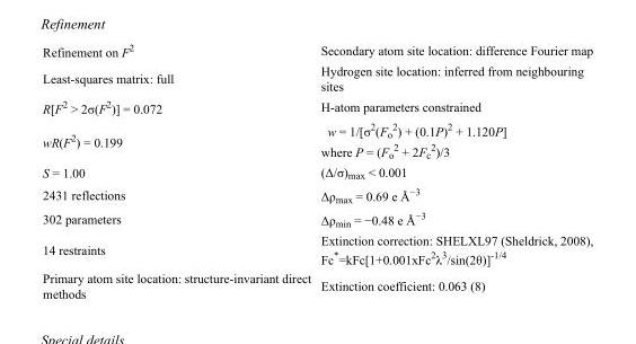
<table><tbody><tr><td>Refinement on F<sup>2</sup></td><td>Secondary atom site location: difference Fourier map</td></tr><tr><td>Least-squares matrix: full</td><td>Hydrogen site location: inferred from neighbouring sites</td></tr><tr><td>R[F<sup>2</sup> &gt; 2σ(F<sup>2</sup>)] = 0.072</td><td>H-atom parameters constrained</td></tr><tr><td>wR(F<sup>2</sup>) = 0.199</td><td>w = 1/[σ<sup>2</sup>(F<sub>o</sub> <sup>2</sup>) + (0.1P)<sup>2</sup> + 1.120P] where P = (F<sub>o</sub> <sup>2</sup> + 2F<sub>c</sub> <sup>2</sup>)/3</td></tr><tr><td>S = 1.00</td><td>(Δ/σ)<sub>max</sub> &lt; 0.001</td></tr><tr><td>2431 reflections</td><td>Δρ<sub>max</sub> = 0.69 e Å<sup>−3</sup></td></tr><tr><td>302 parameters</td><td>Δρ<sub>min</sub> = −0.48 e Å<sup>−3</sup></td></tr><tr><td>14 restraints</td><td>Extinction correction: SHELXL97 (Sheldrick, 2008), Fc*=kFc[1+0.001xFc<sup>2</sup>λ<sup>3</sup>/sin(2θ)]<sup>-1/4</sup></td></tr><tr><td>Primary atom site location: structure-invariant direct methods</td><td>Extinction coefficient: 0.063 (8)</td></tr></tbody></table>